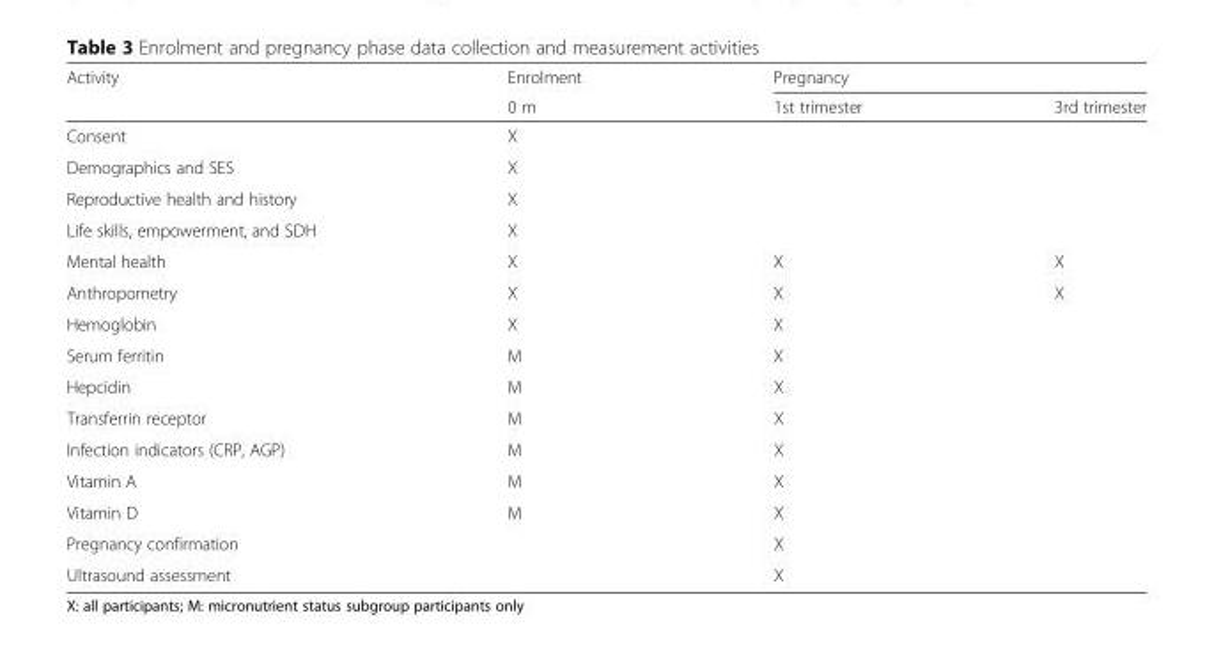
<table><thead><tr><td rowspan="2">Activity</td><td rowspan="2">Enrolment 0 m</td><td colspan="2">Pregnancy</td></tr><tr><td>1st trimester</td><td>3rd trimester</td></tr></thead><tbody><tr><td>Consent</td><td>X</td><td></td><td></td></tr><tr><td>Demographics and SES</td><td>X</td><td></td><td></td></tr><tr><td>Reproductive health and history</td><td>X</td><td></td><td></td></tr><tr><td>Life skills, empowerment, and SDH</td><td>X</td><td></td><td></td></tr><tr><td>Mental health</td><td>X</td><td>X</td><td>X</td></tr><tr><td>Anthropometry</td><td>X</td><td>X</td><td>X</td></tr><tr><td>Hemoglobin</td><td>X</td><td>X</td><td></td></tr><tr><td>Serum ferritin</td><td>M</td><td>X</td><td></td></tr><tr><td>Hepcidin</td><td>M</td><td>X</td><td></td></tr><tr><td>Transferrin receptor</td><td>M</td><td>X</td><td></td></tr><tr><td>Infection indicators (CRP, AGP)</td><td>M</td><td>X</td><td></td></tr><tr><td>Vitamin A</td><td>M</td><td>X</td><td></td></tr><tr><td>Vitamin D</td><td>M</td><td>X</td><td></td></tr><tr><td>Pregnancy confirmation</td><td></td><td>X</td><td></td></tr><tr><td>Ultrasound assessment</td><td></td><td>X</td><td></td></tr></tbody></table>